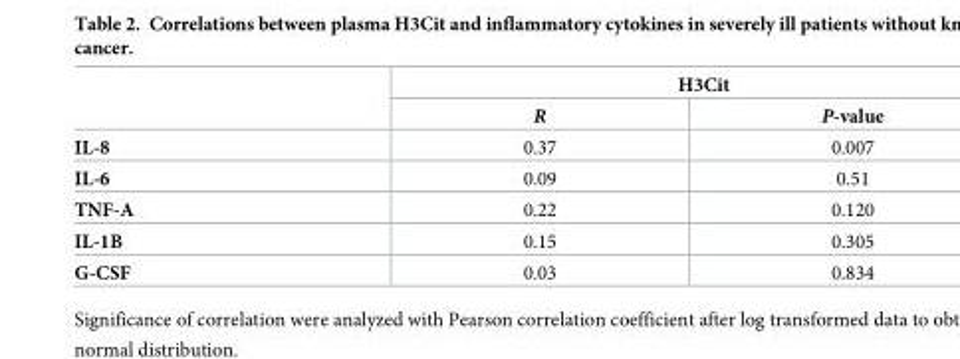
<table><thead><tr><td rowspan="2"></td><td colspan="2">H3Cit</td></tr><tr><td>R</td><td>P-value</td></tr></thead><tbody><tr><td>IL-8</td><td>0.37</td><td>0.007</td></tr><tr><td>IL-6</td><td>0.09</td><td>0.51</td></tr><tr><td>TNF-A</td><td>0.22</td><td>0.120</td></tr><tr><td>IL-1B</td><td>0.15</td><td>0.305</td></tr><tr><td>G-CSF</td><td>0.03</td><td>0.834</td></tr></tbody></table>